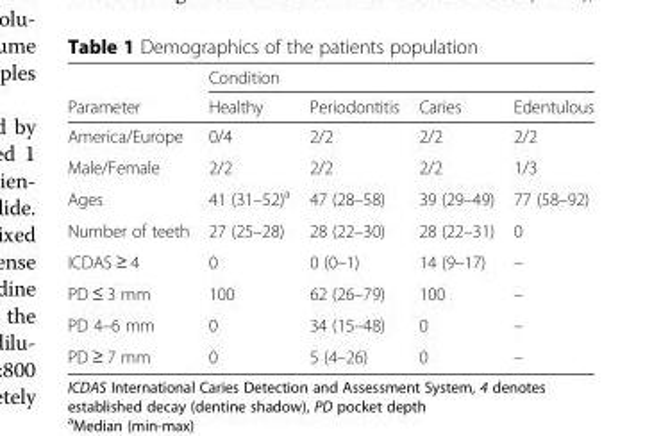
<table><thead><tr><td rowspan="2">Parameter</td><td colspan="4">Condition</td></tr><tr><td>Healthy</td><td>Periodontitis</td><td>Caries</td><td>Edentulous</td></tr></thead><tbody><tr><td>America/Europe</td><td>0/4</td><td>2/2</td><td>2/2</td><td>2/2</td></tr><tr><td>Male/Female</td><td>2/2</td><td>2/2</td><td>2/2</td><td>1/3</td></tr><tr><td>Ages</td><td>41 (31–52)<sup>a</sup></td><td>47 (28–58)</td><td>39 (29–49)</td><td>77 (58–92)</td></tr><tr><td>Number of teeth</td><td>27 (25–28)</td><td>28 (22–30)</td><td>28 (22–31)</td><td>0</td></tr><tr><td>ICDAS ≥ 4</td><td>0</td><td>0 (0–1)</td><td>14 (9–17)</td><td>–</td></tr><tr><td>PD ≤ 3 mm</td><td>100</td><td>62 (26–79)</td><td>100</td><td>–</td></tr><tr><td>PD 4–6 mm</td><td>0</td><td>34 (15–48)</td><td>0</td><td>–</td></tr><tr><td>PD ≥ 7 mm</td><td>0</td><td>5 (4–26)</td><td>0</td><td>–</td></tr></tbody></table>